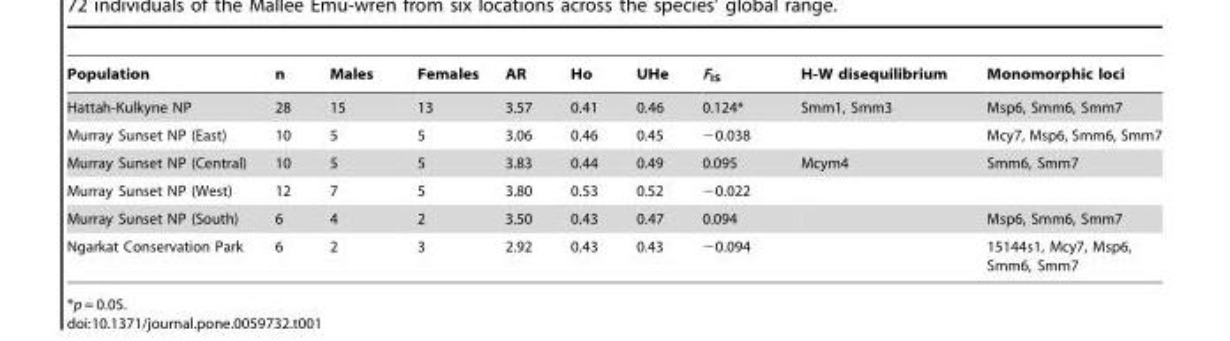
<table><thead><tr><td>Population</td><td>n</td><td>Males</td><td>Females</td><td>AR</td><td>Ho</td><td>UHe</td><td>F<sub>IS</sub></td><td>H-W disequilibrium</td><td>Monomorphic loci</td></tr></thead><tbody><tr><td>Hattah-Kulkyne NP</td><td>28</td><td>15</td><td>13</td><td>3.57</td><td>0.41</td><td>0.46</td><td>0.124*</td><td>Smm1, Smm3</td><td>Msp6, Smm6, Smm7</td></tr><tr><td>Murray Sunset NP (East)</td><td>10</td><td>5</td><td>5</td><td>3.06</td><td>0.46</td><td>0.45</td><td>−0.038</td><td></td><td>Mcy7, Msp6, Smm6, Smm7</td></tr><tr><td>Murray Sunset NP (Central)</td><td>10</td><td>5</td><td>5</td><td>3.83</td><td>0.44</td><td>0.49</td><td>0.095</td><td>Mcym4</td><td>Smm6, Smm7</td></tr><tr><td>Murray Sunset NP (West)</td><td>12</td><td>7</td><td>5</td><td>3.80</td><td>0.53</td><td>0.52</td><td>−0.022</td><td></td><td></td></tr><tr><td>Murray Sunset NP (South)</td><td>6</td><td>4</td><td>2</td><td>3.50</td><td>0.43</td><td>0.47</td><td>0.094</td><td></td><td>Msp6, Smm6, Smm7</td></tr><tr><td>Ngarkat Conservation Park</td><td>6</td><td>2</td><td>3</td><td>2.92</td><td>0.43</td><td>0.43</td><td>−0.094</td><td></td><td>15144s1, Mcy7, Msp6, Smm6, Smm7</td></tr></tbody></table>